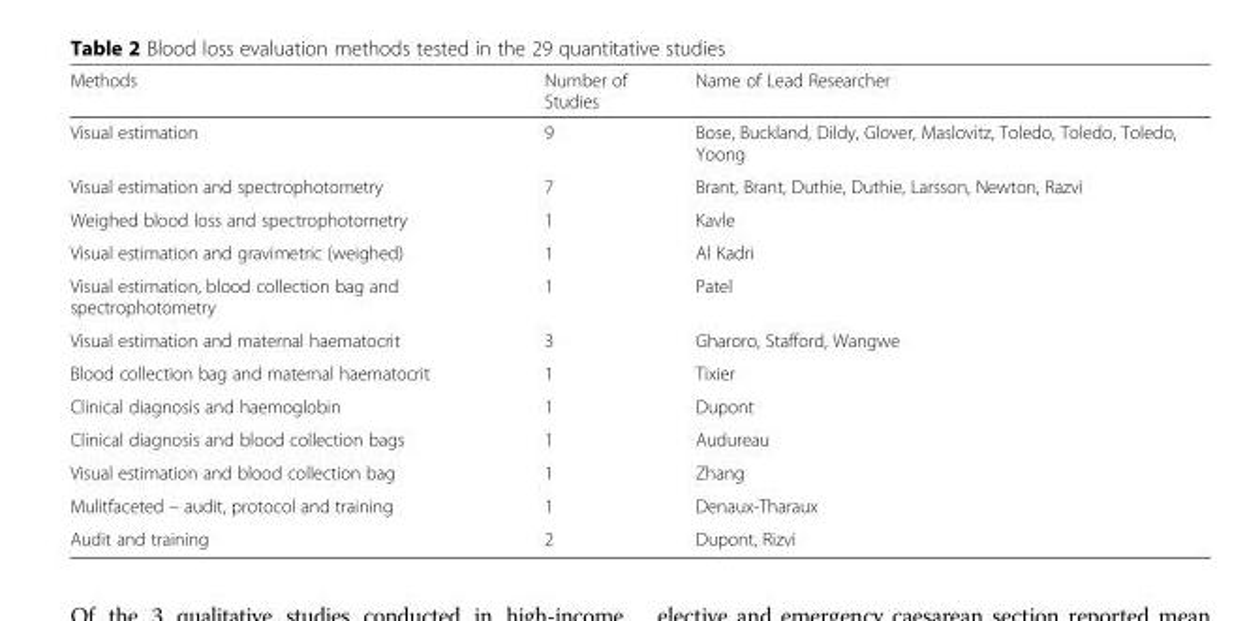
<table><thead><tr><td>Methods</td><td>Number of Studies</td><td>Name of Lead Researcher</td></tr></thead><tbody><tr><td>Visual estimation</td><td>9</td><td>Bose, Buckland, Dildy, Glover, Maslovitz, Toledo, Toledo, Toledo, Yoong</td></tr><tr><td>Visual estimation and spectrophotometry</td><td>7</td><td>Brant, Brant, Duthie, Duthie, Larsson, Newton, Razvi</td></tr><tr><td>Weighed blood loss and spectrophotometry</td><td>1</td><td>Kavle</td></tr><tr><td>Visual estimation and gravimetric (weighed)</td><td>1</td><td>Al Kadri</td></tr><tr><td>Visual estimation, blood collection bag and spectrophotometry</td><td>1</td><td>Patel</td></tr><tr><td>Visual estimation and maternal haematocrit</td><td>3</td><td>Gharoro, Stafford, Wangwe</td></tr><tr><td>Blood collection bag and maternal haematocrit</td><td>1</td><td>Tixier</td></tr><tr><td>Clinical diagnosis and haemoglobin</td><td>1</td><td>Dupont</td></tr><tr><td>Clinical diagnosis and blood collection bags</td><td>1</td><td>Audureau</td></tr><tr><td>Visual estimation and blood collection bag</td><td>1</td><td>Zhang</td></tr><tr><td>Mulitfaceted – audit, protocol and training</td><td>1</td><td>Denaux-Tharaux</td></tr><tr><td>Audit and training</td><td>2</td><td>Dupont, Rizvi</td></tr></tbody></table>